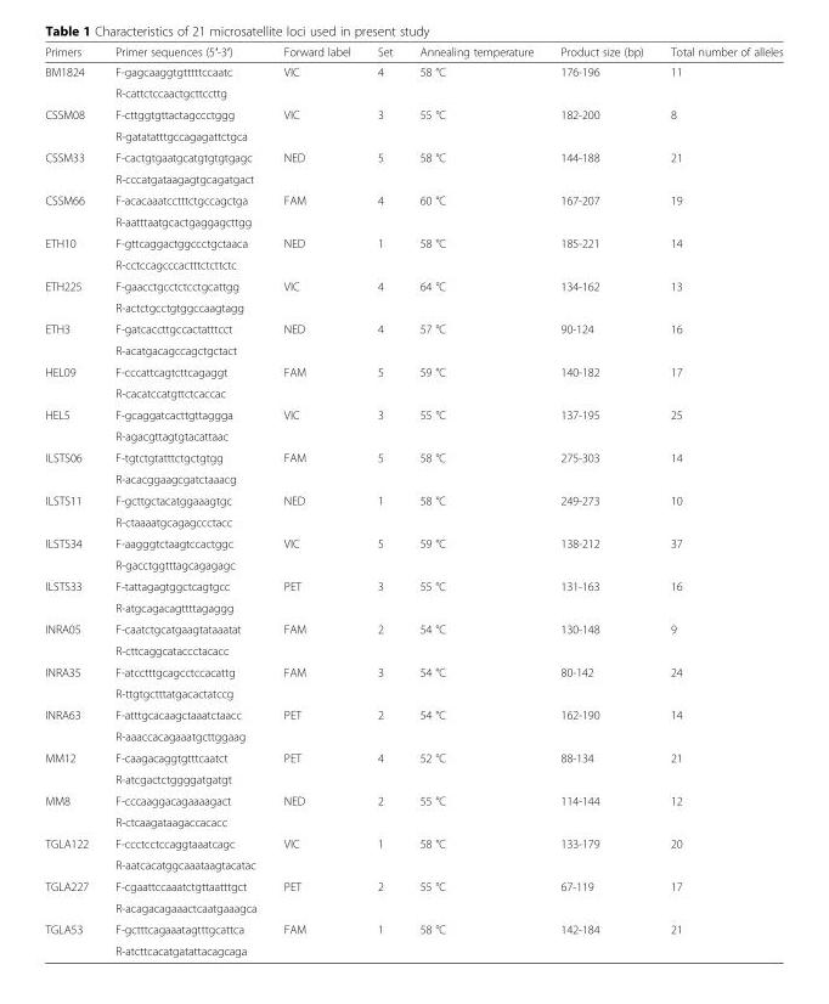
<table><thead><tr><td>Primers</td><td>Primer sequences (5′-3′)</td><td>Forward label</td><td>Set</td><td>Annealing temperature</td><td>Product size (bp)</td><td>Total number of alleles</td></tr></thead><tbody><tr><td rowspan="2">BM1824</td><td>F-gagcaaggtgtttttccaatc</td><td>VIC</td><td>4</td><td>58 °C</td><td>176-196</td><td>11</td></tr><tr><td>R-cattctccaactgcttccttg</td><td></td><td></td><td></td><td></td><td></td></tr><tr><td rowspan="2">CSSM08</td><td>F-cttggtgttactagccctggg</td><td>VIC</td><td>3</td><td>55 °C</td><td>182-200</td><td>8</td></tr><tr><td>R-gatatatttgccagagattctgca</td><td></td><td></td><td></td><td></td><td></td></tr><tr><td rowspan="2">CSSM33</td><td>F-cactgtgaatgcatgtgtgtgagc</td><td>NED</td><td>5</td><td>58 °C</td><td>144-188</td><td>21</td></tr><tr><td>R-cccatgataagagtgcagatgact</td><td></td><td></td><td></td><td></td><td></td></tr><tr><td rowspan="2">CSSM66</td><td>F-acacaaatcctttctgccagctga</td><td>FAM</td><td>4</td><td>60 °C</td><td>167-207</td><td>19</td></tr><tr><td>R-aatttaatgcactgaggagcttgg</td><td></td><td></td><td></td><td></td><td></td></tr><tr><td rowspan="2">ETH10</td><td>F-gttcaggactggccctgctaaca</td><td>NED</td><td>1</td><td>58 °C</td><td>185-221</td><td>14</td></tr><tr><td>R-cctccagcccactttctcttctc</td><td></td><td></td><td></td><td></td><td></td></tr><tr><td rowspan="2">ETH225</td><td>F-gaacctgcctctcctgcattgg</td><td>VIC</td><td>4</td><td>64 °C</td><td>134-162</td><td>13</td></tr><tr><td>R-actctgcctgtggccaagtagg</td><td></td><td></td><td></td><td></td><td></td></tr><tr><td rowspan="2">ETH3</td><td>F-gatcaccttgccactatttcct</td><td>NED</td><td>4</td><td>57 °C</td><td>90-124</td><td>16</td></tr><tr><td>R-acatgacagccagctgctact</td><td></td><td></td><td></td><td></td><td></td></tr><tr><td rowspan="2">HEL09</td><td>F-cccattcagtcttcagaggt</td><td>FAM</td><td>5</td><td>59 °C</td><td>140-182</td><td>17</td></tr><tr><td>R-cacatccatgttctcaccac</td><td></td><td></td><td></td><td></td><td></td></tr><tr><td rowspan="2">HEL5</td><td>F-gcaggatcacttgttaggga</td><td>VIC</td><td>3</td><td>55 °C</td><td>137-195</td><td>25</td></tr><tr><td>R-agacgttagtgtacattaac</td><td></td><td></td><td></td><td></td><td></td></tr><tr><td rowspan="2">ILSTS06</td><td>F-tgtctgtatttctgctgtgg</td><td>FAM</td><td>5</td><td>58 °C</td><td>275-303</td><td>14</td></tr><tr><td>R-acacggaagcgatctaaacg</td><td></td><td></td><td></td><td></td><td></td></tr><tr><td rowspan="2">ILSTS11</td><td>F-gcttgctacatggaaagtgc</td><td>NED</td><td>1</td><td>58 °C</td><td>249-273</td><td>10</td></tr><tr><td>R-ctaaaatgcagagccctacc</td><td></td><td></td><td></td><td></td><td></td></tr><tr><td rowspan="2">ILSTS34</td><td>F-aagggtctaagtccactggc</td><td>VIC</td><td>5</td><td>59 °C</td><td>138-212</td><td>37</td></tr><tr><td>R-gacctggtttagcagagagc</td><td></td><td></td><td></td><td></td><td></td></tr><tr><td rowspan="2">ILSTS33</td><td>F-tattagagtggctcagtgcc</td><td>PET</td><td>3</td><td>55 °C</td><td>131-163</td><td>16</td></tr><tr><td>R-atgcagacagttttagaggg</td><td></td><td></td><td></td><td></td><td></td></tr><tr><td rowspan="2">INRA05</td><td>F-caatctgcatgaagtataaatat</td><td>FAM</td><td>2</td><td>54 °C</td><td>130-148</td><td>9</td></tr><tr><td>R-cttcaggcataccctacacc</td><td></td><td></td><td></td><td></td><td></td></tr><tr><td rowspan="2">INRA35</td><td>F-atcctttgcagcctccacattg</td><td>FAM</td><td>3</td><td>54 °C</td><td>80-142</td><td>24</td></tr><tr><td>R-ttgtgctttatgacactatccg</td><td></td><td></td><td></td><td></td><td></td></tr><tr><td rowspan="2">INRA63</td><td>F-atttgcacaagctaaatctaacc</td><td>PET</td><td>2</td><td>54 °C</td><td>162-190</td><td>14</td></tr><tr><td>R-aaaccacagaaatgcttggaag</td><td></td><td></td><td></td><td></td><td></td></tr><tr><td rowspan="2">MM12</td><td>F-caagacaggtgtttcaatct</td><td>PET</td><td>4</td><td>52 °C</td><td>88-134</td><td>21</td></tr><tr><td>R-atcgactctggggatgatgt</td><td></td><td></td><td></td><td></td><td></td></tr><tr><td rowspan="2">MM8</td><td>F-cccaaggacagaaaagact</td><td>NED</td><td>2</td><td>55 °C</td><td>114-144</td><td>12</td></tr><tr><td>R-ctcaagataagaccacacc</td><td></td><td></td><td></td><td></td><td></td></tr><tr><td rowspan="2">TGLA122</td><td>F-ccctcctccaggtaaatcagc</td><td>VIC</td><td>1</td><td>58 °C</td><td>133-179</td><td>20</td></tr><tr><td>R-aatcacatggcaaataagtacatac</td><td></td><td></td><td></td><td></td><td></td></tr><tr><td rowspan="2">TGLA227</td><td>F-cgaattccaaatctgttaatttgct</td><td>PET</td><td>2</td><td>55 °C</td><td>67-119</td><td>17</td></tr><tr><td>R-acagacagaaactcaatgaaagca</td><td></td><td></td><td></td><td></td><td></td></tr><tr><td rowspan="2">TGLA53</td><td>F-gctttcagaaatagtttgcattca</td><td>FAM</td><td>1</td><td>58 °C</td><td>142-184</td><td>21</td></tr><tr><td>R-atcttcacatgatattacagcaga</td><td></td><td></td><td></td><td></td><td></td></tr></tbody></table>